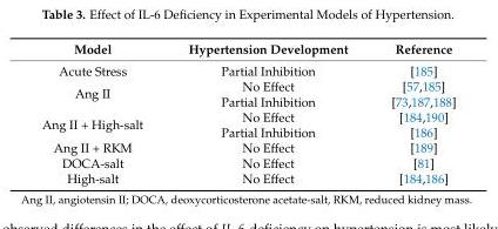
<table><thead><tr><td>Model</td><td>Hypertension Development</td><td>Reference</td></tr></thead><tbody><tr><td>Acute Stress</td><td>Partial Inhibition</td><td>[185]</td></tr><tr><td rowspan="2">Ang II</td><td>No Effect</td><td>[57,185]</td></tr><tr><td>Partial Inhibition</td><td>[73,187,188]</td></tr><tr><td rowspan="2">Ang II + High-salt</td><td>No Effect</td><td>[184,190]</td></tr><tr><td>Partial Inhibition</td><td>[186]</td></tr><tr><td>Ang II + RKM</td><td>No Effect</td><td>[189]</td></tr><tr><td>DOCA-salt</td><td>No Effect</td><td>[81]</td></tr><tr><td>High-salt</td><td>No Effect</td><td>[184,186]</td></tr></tbody></table>